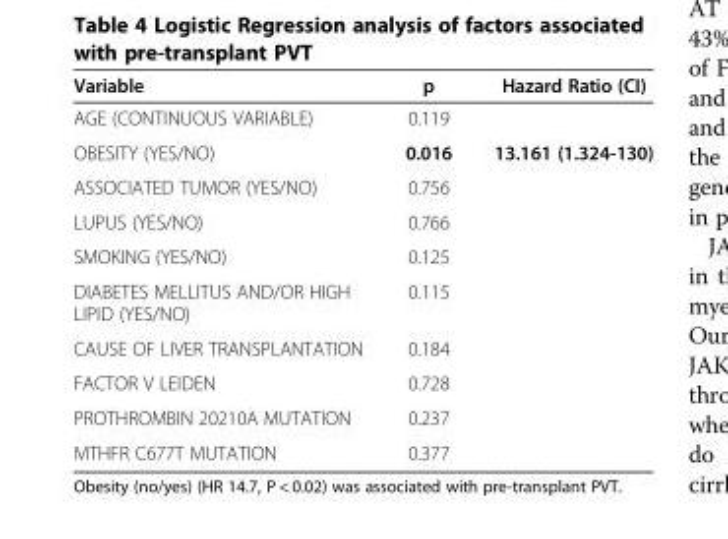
<table><thead><tr><td>Variable</td><td>p</td><td>Hazard Ratio (CI)</td></tr></thead><tbody><tr><td>AGE (CONTINUOUS VARIABLE)</td><td>0.119</td><td></td></tr><tr><td>OBESITY (YES/NO)</td><td>0.016</td><td>13.161 (1.324-130)</td></tr><tr><td>ASSOCIATED TUMOR (YES/NO)</td><td>0.756</td><td></td></tr><tr><td>LUPUS (YES/NO)</td><td>0.766</td><td></td></tr><tr><td>SMOKING (YES/NO)</td><td>0.125</td><td></td></tr><tr><td>DIABETES MELLITUS AND/OR HIGH LIPID (YES/NO)</td><td>0.115</td><td></td></tr><tr><td>CAUSE OF LIVER TRANSPLANTATION</td><td>0.184</td><td></td></tr><tr><td>FACTOR V LEIDEN</td><td>0.728</td><td></td></tr><tr><td>PROTHROMBIN 20210A MUTATION</td><td>0.237</td><td></td></tr><tr><td>MTHFR C677T MUTATION</td><td>0.377</td><td></td></tr></tbody></table>